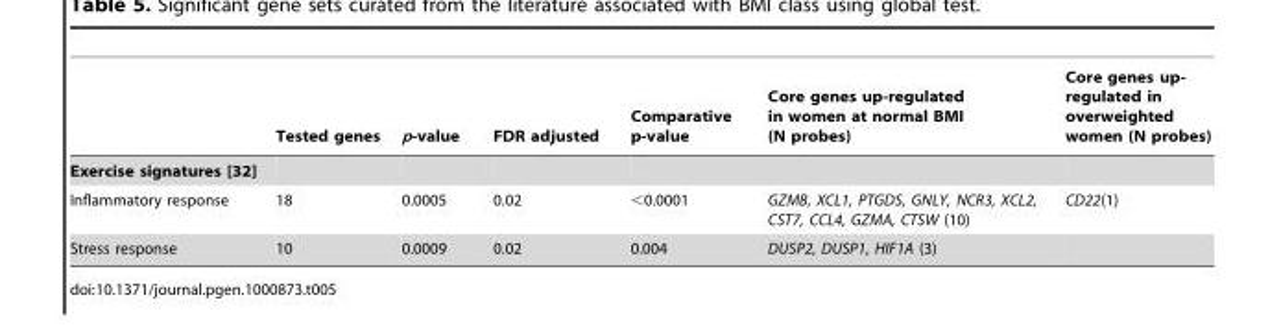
<table><thead><tr><td></td><td>Tested genes</td><td>p-value</td><td>FDR adjusted</td><td>Comparative p-value</td><td>Core genes up-regulated in women at normal BMI (N probes)</td><td>Core genes up- regulated in overweighted women (N probes)</td></tr></thead><tbody><tr><td colspan="7">Exercise signatures [32]</td></tr><tr><td>Inflammatory response</td><td>18</td><td>0.0005</td><td>0.02</td><td>&lt;0.0001</td><td>GZMB, XCL1, PTGDS, GNLY, NCR3, XCL2, CST7, CCL4, GZMA, CTSW (10)</td><td>CD22(1)</td></tr><tr><td>Stress response</td><td>10</td><td>0.0009</td><td>0.02</td><td>0.004</td><td>DUSP2, DUSP1, HIF1A (3)</td><td></td></tr></tbody></table>